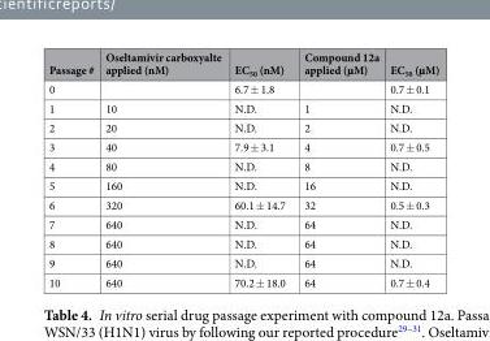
<table><thead><tr><td>Passage #</td><td>Oseltamivir carboxyalte applied (nM)</td><td>EC<sub>50</sub> (nM)</td><td>Compound 12a applied (µM)</td><td>EC<sub>50</sub> (µM)</td></tr></thead><tbody><tr><td>0</td><td></td><td>6.7 ± 1.8</td><td></td><td>0.7 ± 0.1</td></tr><tr><td>1</td><td>10</td><td>N.D.</td><td>1</td><td>N.D.</td></tr><tr><td>2</td><td>20</td><td>N.D.</td><td>2</td><td>N.D.</td></tr><tr><td>3</td><td>40</td><td>7.9 ± 3.1</td><td>4</td><td>0.7 ± 0.5</td></tr><tr><td>4</td><td>80</td><td>N.D.</td><td>8</td><td>N.D.</td></tr><tr><td>5</td><td>160</td><td>N.D.</td><td>16</td><td>N.D.</td></tr><tr><td>6</td><td>320</td><td>60.1 ± 14.7</td><td>32</td><td>0.5 ± 0.3</td></tr><tr><td>7</td><td>640</td><td>N.D.</td><td>64</td><td>N.D.</td></tr><tr><td>8</td><td>640</td><td>N.D.</td><td>64</td><td>N.D.</td></tr><tr><td>9</td><td>640</td><td>N.D.</td><td>64</td><td>N.D.</td></tr><tr><td>10</td><td>640</td><td>70.2 ± 18.0</td><td>64</td><td>0.7 ± 0.4</td></tr></tbody></table>